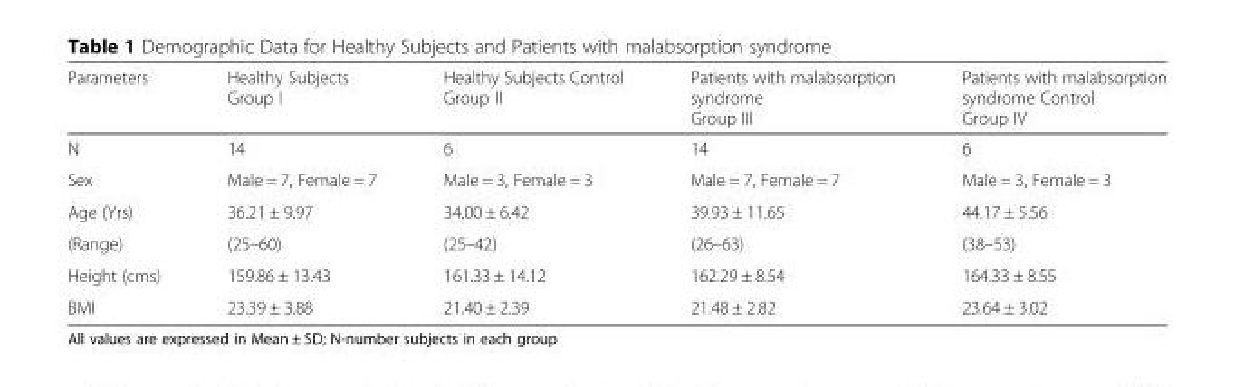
<table><thead><tr><td>Parameters</td><td>Healthy Subjects Group I</td><td>Healthy Subjects Control Group II</td><td>Patients with malabsorption syndrome Group III</td><td>Patients with malabsorption syndrome Control Group IV</td></tr></thead><tbody><tr><td>N</td><td>14</td><td>6</td><td>14</td><td>6</td></tr><tr><td>Sex</td><td>Male = 7, Female = 7</td><td>Male = 3, Female = 3</td><td>Male = 7, Female = 7</td><td>Male = 3, Female = 3</td></tr><tr><td>Age (Yrs)</td><td>36.21 ± 9.97</td><td>34.00 ± 6.42</td><td>39.93 ± 11.65</td><td>44.17 ± 5.56</td></tr><tr><td>(Range)</td><td>(25–60)</td><td>(25–42)</td><td>(26–63)</td><td>(38–53)</td></tr><tr><td>Height (cms)</td><td>159.86 ± 13.43</td><td>161.33 ± 14.12</td><td>162.29 ± 8.54</td><td>164.33 ± 8.55</td></tr><tr><td>BMI</td><td>23.39 ± 3.88</td><td>21.40 ± 2.39</td><td>21.48 ± 2.82</td><td>23.64 ± 3.02</td></tr></tbody></table>